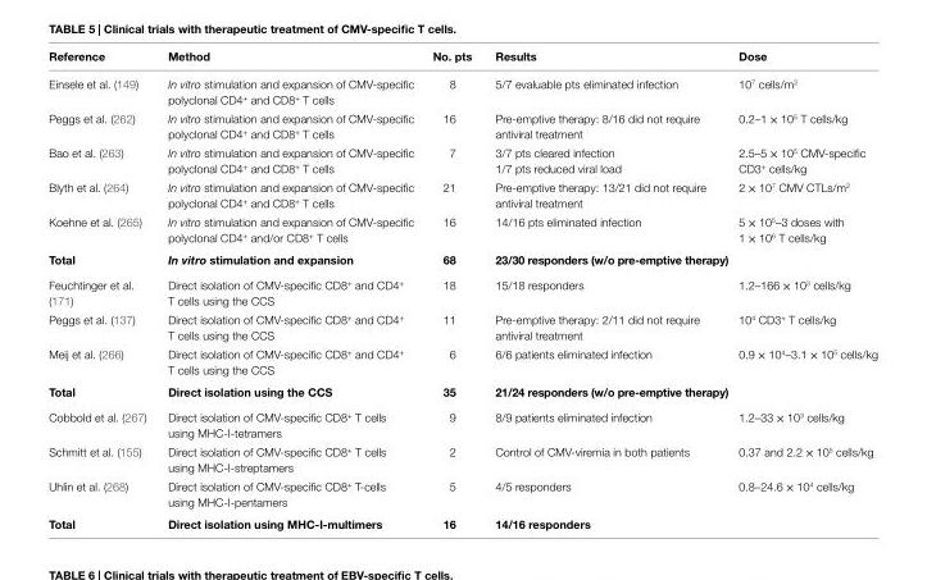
<table><thead><tr><td>Reference</td><td>Method</td><td>No. pts</td><td>Results</td><td>Dose</td></tr></thead><tbody><tr><td>Einsele et al. (149)</td><td>In vitro stimulation and expansion of CMV-specific polyclonal CD4<sup>+</sup> and CD8<sup>+</sup> T cells</td><td>8</td><td>5/7 evaluable pts eliminated infection</td><td>10<sup>7</sup> cells/m<sup>2</sup></td></tr><tr><td>Peggs et al. (262)</td><td>In vitro stimulation and expansion of CMV-specific polyclonal CD4<sup>+</sup> and CD8<sup>+</sup> T cells</td><td>16</td><td>Pre-emptive therapy: 8/16 did not require antiviral treatment</td><td>0.2–1 × 10<sup>5</sup> T cells/kg</td></tr><tr><td>Bao et al. (263)</td><td>In vitro stimulation and expansion of CMV-specific polyclonal CD4<sup>+</sup> and CD8<sup>+</sup> T cells</td><td>7</td><td>3/7 pts cleared infection 1/7 pts reduced viral load</td><td>2.5–5 × 10<sup>5</sup> CMV-specific CD3<sup>+</sup> cells/kg</td></tr><tr><td>Blyth et al. (264)</td><td>In vitro stimulation and expansion of CMV-specific polyclonal CD4<sup>+</sup> and CD8<sup>+</sup> T cells</td><td>21</td><td>Pre-emptive therapy: 13/21 did not require antiviral treatment</td><td>2 × 10<sup>7</sup> CMV CTLs/m<sup>2</sup></td></tr><tr><td>Koehne et al. (265)</td><td>In vitro stimulation and expansion of CMV-specific polyclonal CD4<sup>+</sup> and/or CD8<sup>+</sup> T cells</td><td>16</td><td>14/16 pts eliminated infection</td><td>5 × 10<sup>5</sup>–3 doses with 1 × 10<sup>6</sup> T cells/kg</td></tr><tr><td>Total</td><td>In vitro stimulation and expansion</td><td>68</td><td>23/30 responders (w/o pre-emptive therapy)</td><td></td></tr><tr><td>Feuchtinger et al. (171)</td><td>Direct isolation of CMV-specific CD8<sup>+</sup> and CD4<sup>+</sup> T cells using the CCS</td><td>18</td><td>15/18 responders</td><td>1.2–166 × 10<sup>3</sup> cells/kg</td></tr><tr><td>Peggs et al. (137)</td><td>Direct isolation of CMV-specific CD8<sup>+</sup> and CD4<sup>+</sup> T cells using the CCS</td><td>11</td><td>Pre-emptive therapy: 2/11 did not require antiviral treatment</td><td>10<sup>4</sup> CD3<sup>+</sup> T cells/kg</td></tr><tr><td>Meij et al. (266)</td><td>Direct isolation of CMV-specific CD8<sup>+</sup> and CD4<sup>+</sup> T cells using the CCS</td><td>6</td><td>6/6 patients eliminated infection</td><td>0.9 × 10<sup>4</sup>–3.1 × 10<sup>5</sup> cells/kg</td></tr><tr><td>Total</td><td>Direct isolation using the CCS</td><td>35</td><td>21/24 responders (w/o pre-emptive therapy)</td><td></td></tr><tr><td>Cobbold et al. (267)</td><td>Direct isolation of CMV-specific CD8<sup>+</sup> T cells using MHC-I-tetramers</td><td>9</td><td>8/9 patients eliminated infection</td><td>1.2–33 × 10<sup>3</sup> cells/kg</td></tr><tr><td>Schmitt et al. (155)</td><td>Direct isolation of CMV-specific CD8<sup>+</sup> T cells using MHC-I-streptamers</td><td>2</td><td>Control of CMV-viremia in both patients</td><td>0.37 and 2.2 × 10<sup>5</sup> cells/kg</td></tr><tr><td>Uhlin et al. (268)</td><td>Direct isolation of CMV-specific CD8<sup>+</sup> T-cells using MHC-I-pentamers</td><td>5</td><td>4/5 responders</td><td>0.8–24.6 × 10<sup>4</sup> cells/kg</td></tr><tr><td>Total</td><td>Direct isolation using MHC-i-multimers</td><td>16</td><td>14/16 responders</td><td></td></tr></tbody></table>